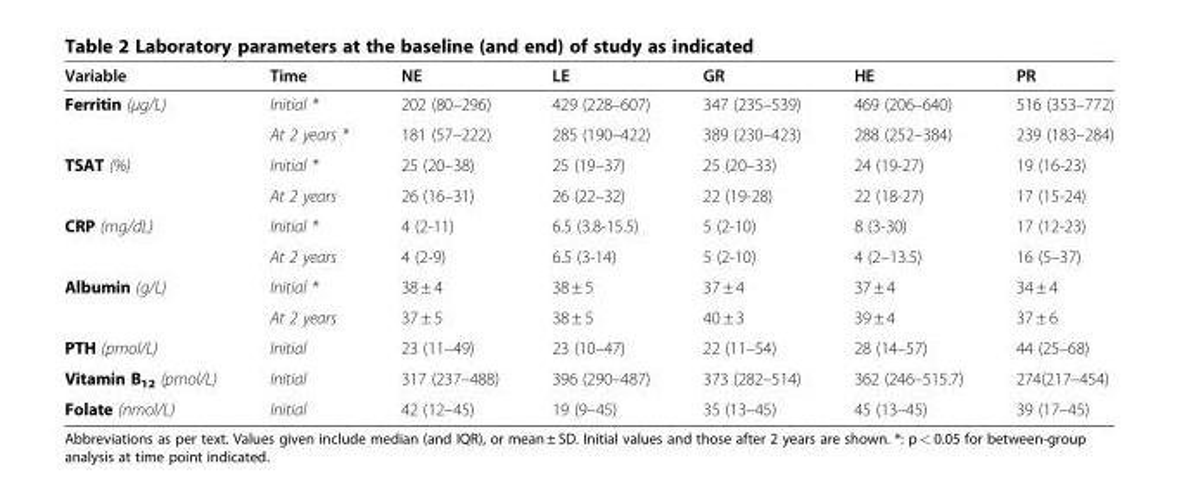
<table><thead><tr><td>Variable</td><td>Time</td><td>NE</td><td>LE</td><td>GR</td><td>HE</td><td>PR</td></tr></thead><tbody><tr><td rowspan="2">Ferritin (μg/L)</td><td>Initial *</td><td>202 (80–296)</td><td>429 (228–607)</td><td>347 (235–539)</td><td>469 (206–640)</td><td>516 (353–772)</td></tr><tr><td>At 2 years *</td><td>181 (57–222)</td><td>285 (190–422)</td><td>389 (230–423)</td><td>288 (252–384)</td><td>239 (183–284)</td></tr><tr><td rowspan="2">TSAT (%)</td><td>Initial *</td><td>25 (20–38)</td><td>25 (19–37)</td><td>25 (20–33)</td><td>24 (19-27)</td><td>19 (16-23)</td></tr><tr><td>At 2 years</td><td>26 (16–31)</td><td>26 (22–32)</td><td>22 (19-28)</td><td>22 (18-27)</td><td>17 (15-24)</td></tr><tr><td rowspan="2">CRP (mg/dL)</td><td>Initial *</td><td>4 (2-11)</td><td>6.5 (3.8-15.5)</td><td>5 (2-10)</td><td>8 (3-30)</td><td>17 (12-23)</td></tr><tr><td>At 2 years</td><td>4 (2-9)</td><td>6.5 (3-14)</td><td>5 (2-10)</td><td>4 (2–13.5)</td><td>16 (5–37)</td></tr><tr><td rowspan="2">Albumin (g/L)</td><td>Initial *</td><td>38 ± 4</td><td>38 ± 5</td><td>37 ± 4</td><td>37 ± 4</td><td>34 ± 4</td></tr><tr><td>At 2 years</td><td>37 ± 5</td><td>38 ± 5</td><td>40 ± 3</td><td>39 ± 4</td><td>37 ± 6</td></tr><tr><td>PTH (pmol/L)</td><td>Initial</td><td>23 (11–49)</td><td>23 (10–47)</td><td>22 (11–54)</td><td>28 (14–57)</td><td>44 (25–68)</td></tr><tr><td>Vitamin B<sub>12</sub> (pmol/L)</td><td>Initial</td><td>317 (237–488)</td><td>396 (290–487)</td><td>373 (282–514)</td><td>362 (246–515.7)</td><td>274(217–454)</td></tr><tr><td>Folate (nmol/L)</td><td>Initial</td><td>42 (12–45)</td><td>19 (9–45)</td><td>35 (13–45)</td><td>45 (13–45)</td><td>39 (17–45)</td></tr></tbody></table>